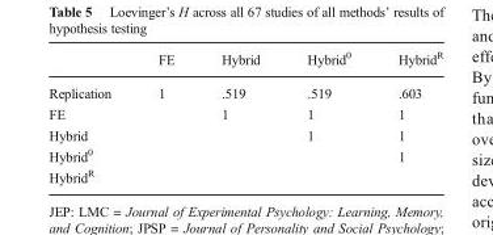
<table><thead><tr><td></td><td>FE</td><td>Hybrid</td><td>Hybrid<sup>0</sup></td><td>Hybrid<sup>R</sup></td></tr></thead><tbody><tr><td>Replication</td><td>1</td><td>.519</td><td>.519</td><td>.603</td></tr><tr><td>FE</td><td></td><td>1</td><td>1</td><td>1</td></tr><tr><td>Hybrid</td><td></td><td></td><td>1</td><td>1</td></tr><tr><td>Hybrid<sup>0</sup></td><td></td><td></td><td></td><td>1</td></tr><tr><td>Hybrid<sup>R</sup></td><td></td><td></td><td></td><td></td></tr></tbody></table>